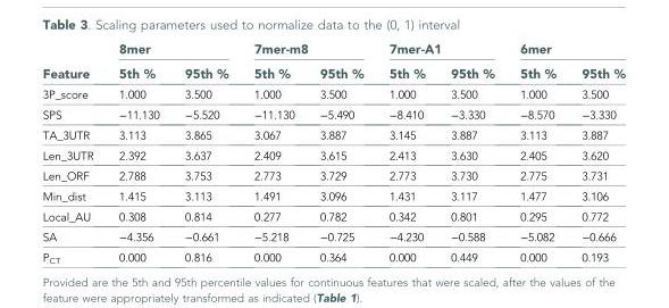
<table><thead><tr><td rowspan="2">Feature</td><td colspan="2">8mer</td><td colspan="2">7mer-m8</td><td colspan="2">7mer-A1</td><td colspan="2">6mer</td></tr><tr><td>5th %</td><td>95th %</td><td>5th %</td><td>95th %</td><td>5th %</td><td>95th %</td><td>5th %</td><td>95th %</td></tr></thead><tbody><tr><td>3P_score</td><td>1.000</td><td>3.500</td><td>1.000</td><td>3.500</td><td>1.000</td><td>3.500</td><td>1.000</td><td>3.500</td></tr><tr><td>SPS</td><td>−11.130</td><td>−5.520</td><td>−11.130</td><td>−5.490</td><td>−8.410</td><td>−3.330</td><td>−8.570</td><td>−3.330</td></tr><tr><td>TA_3UTR</td><td>3.113</td><td>3.865</td><td>3.067</td><td>3.887</td><td>3.145</td><td>3.887</td><td>3.113</td><td>3.887</td></tr><tr><td>Len_3UTR</td><td>2.392</td><td>3.637</td><td>2.409</td><td>3.615</td><td>2.413</td><td>3.630</td><td>2.405</td><td>3.620</td></tr><tr><td>Len_ORF</td><td>2.788</td><td>3.753</td><td>2.773</td><td>3.729</td><td>2.773</td><td>3.730</td><td>2.775</td><td>3.731</td></tr><tr><td>Min_dist</td><td>1.415</td><td>3.113</td><td>1.491</td><td>3.096</td><td>1.431</td><td>3.117</td><td>1.477</td><td>3.106</td></tr><tr><td>Local_AU</td><td>0.308</td><td>0.814</td><td>0.277</td><td>0.782</td><td>0.342</td><td>0.801</td><td>0.295</td><td>0.772</td></tr><tr><td>SA</td><td>−4.356</td><td>−0.661</td><td>−5.218</td><td>−0.725</td><td>−4.230</td><td>−0.588</td><td>−5.082</td><td>−0.666</td></tr><tr><td>P<sub>CT</sub></td><td>0.000</td><td>0.816</td><td>0.000</td><td>0.364</td><td>0.000</td><td>0.449</td><td>0.000</td><td>0.193</td></tr></tbody></table>